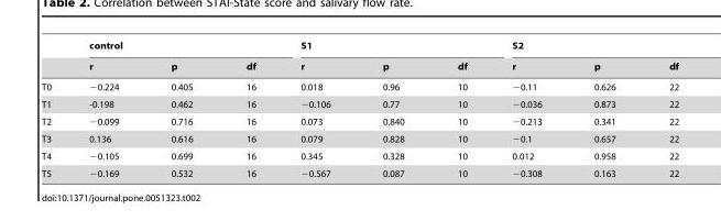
<table><thead><tr><td rowspan="2"></td><td colspan="3">control</td><td colspan="3">S1</td><td colspan="3">S2</td></tr><tr><td>r</td><td>p</td><td>df</td><td>r</td><td>p</td><td>df</td><td>r</td><td>p</td><td>df</td></tr></thead><tbody><tr><td>T0</td><td>−0.224</td><td>0.405</td><td>16</td><td>0.018</td><td>0.96</td><td>10</td><td>−0.11</td><td>0.626</td><td>22</td></tr><tr><td>T1</td><td>-0.198</td><td>0.462</td><td>16</td><td>−0.106</td><td>0.77</td><td>10</td><td>−0.036</td><td>0.873</td><td>22</td></tr><tr><td>T2</td><td>−0.099</td><td>0.716</td><td>16</td><td>0.073</td><td>0.840</td><td>10</td><td>−0.213</td><td>0.341</td><td>22</td></tr><tr><td>T3</td><td>0.136</td><td>0.616</td><td>16</td><td>0.079</td><td>0.828</td><td>10</td><td>−0.1</td><td>0.657</td><td>22</td></tr><tr><td>T4</td><td>−0.105</td><td>0.699</td><td>16</td><td>0.345</td><td>0.328</td><td>10</td><td>0.012</td><td>0.958</td><td>22</td></tr><tr><td>T5</td><td>−0.169</td><td>0.532</td><td>16</td><td>−0.567</td><td>0.087</td><td>10</td><td>−0.308</td><td>0.163</td><td>22</td></tr></tbody></table>